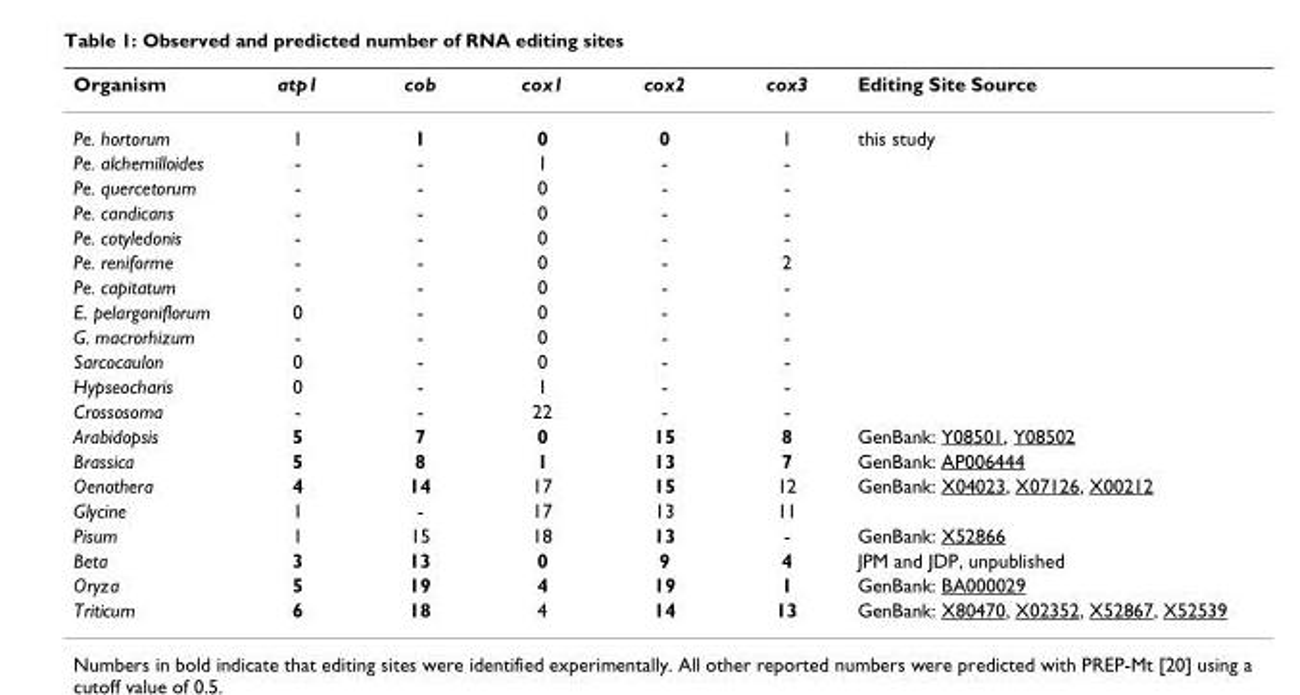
<table><thead><tr><td>Organism</td><td>atp1</td><td>cob</td><td>cox1</td><td>cox2</td><td>cox3</td><td>Editing Site Source</td></tr></thead><tbody><tr><td>Pe. hortorum</td><td>1</td><td>1</td><td>0</td><td>0</td><td>1</td><td>this study</td></tr><tr><td>Pe. alchemilloides</td><td>-</td><td>-</td><td>1</td><td>-</td><td>-</td><td></td></tr><tr><td>Pe. quercetorum</td><td>-</td><td>-</td><td>0</td><td>-</td><td>-</td><td></td></tr><tr><td>Pe. candicans</td><td>-</td><td>-</td><td>0</td><td>-</td><td>-</td><td></td></tr><tr><td>Pe. cotyledonis</td><td>-</td><td>-</td><td>0</td><td>-</td><td>-</td><td></td></tr><tr><td>Pe. reniforme</td><td>-</td><td>-</td><td>0</td><td>-</td><td>2</td><td></td></tr><tr><td>Pe. capitatum</td><td>-</td><td>-</td><td>0</td><td>-</td><td>-</td><td></td></tr><tr><td>E. pelargoniflorum</td><td>0</td><td>-</td><td>0</td><td>-</td><td>-</td><td></td></tr><tr><td>G. macrorhizum</td><td>-</td><td>-</td><td>0</td><td>-</td><td>-</td><td></td></tr><tr><td>Sarcocaulon</td><td>0</td><td>-</td><td>0</td><td>-</td><td>-</td><td></td></tr><tr><td>Hypseocharis</td><td>0</td><td>-</td><td>1</td><td>-</td><td>-</td><td></td></tr><tr><td>Crossosoma</td><td>-</td><td>-</td><td>22</td><td>-</td><td>-</td><td></td></tr><tr><td>Arabidopsis</td><td>5</td><td>7</td><td>0</td><td>15</td><td>8</td><td>GenBank: Y08501, Y08502</td></tr><tr><td>Brassica</td><td>5</td><td>8</td><td>1</td><td>13</td><td>7</td><td>GenBank: AP006444</td></tr><tr><td>Oenothera</td><td>4</td><td>14</td><td>17</td><td>15</td><td>12</td><td>GenBank: X04023, X07126, X00212</td></tr><tr><td>Glycine</td><td>1</td><td>-</td><td>17</td><td>13</td><td>11</td><td></td></tr><tr><td>Pisum</td><td>1</td><td>15</td><td>18</td><td>13</td><td>-</td><td>GenBank: X52866</td></tr><tr><td>Beta</td><td>3</td><td>13</td><td>0</td><td>9</td><td>4</td><td>JPM and JDP, unpublished</td></tr><tr><td>Oryza</td><td>5</td><td>19</td><td>4</td><td>19</td><td>1</td><td>GenBank: BA000029</td></tr><tr><td>Triticum</td><td>6</td><td>18</td><td>4</td><td>14</td><td>13</td><td>GenBank: X80470, X02352, X52867, X52539</td></tr></tbody></table>